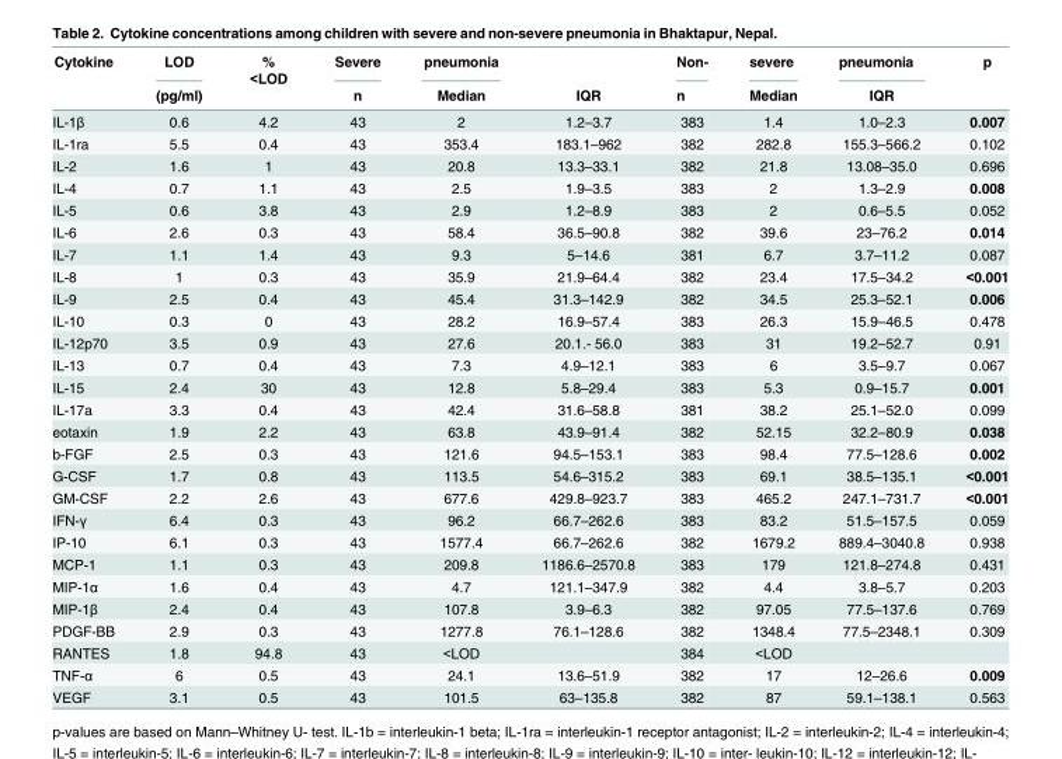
<table><thead><tr><td rowspan="2">Cytokine</td><td rowspan="2">LOD (pg/ml)</td><td rowspan="2">% &lt;LOD</td><td rowspan="2">Severe n</td><td rowspan="2">pneumonia Median</td><td rowspan="2">IQR</td><td rowspan="2">Non- n</td><td rowspan="2">severe Median</td><td rowspan="2">pneumonia IQR</td><td rowspan="2">p</td></tr><tr></tr></thead><tbody><tr><td>IL-1β</td><td>0.6</td><td>4.2</td><td>43</td><td>2</td><td>1.2–3.7</td><td>383</td><td>1.4</td><td>1.0–2.3</td><td>0.007</td></tr><tr><td>IL-1ra</td><td>5.5</td><td>0.4</td><td>43</td><td>353.4</td><td>183.1–962</td><td>382</td><td>282.8</td><td>155.3–566.2</td><td>0.102</td></tr><tr><td>IL-2</td><td>1.6</td><td>1</td><td>43</td><td>20.8</td><td>13.3–33.1</td><td>382</td><td>21.8</td><td>13.08–35.0</td><td>0.696</td></tr><tr><td>IL-4</td><td>0.7</td><td>1.1</td><td>43</td><td>2.5</td><td>1.9–3.5</td><td>383</td><td>2</td><td>1.3–2.9</td><td>0.008</td></tr><tr><td>IL-5</td><td>0.6</td><td>3.8</td><td>43</td><td>2.9</td><td>1.2–8.9</td><td>383</td><td>2</td><td>0.6–5.5</td><td>0.052</td></tr><tr><td>IL-6</td><td>2.6</td><td>0.3</td><td>43</td><td>58.4</td><td>36.5–90.8</td><td>382</td><td>39.6</td><td>23–76.2</td><td>0.014</td></tr><tr><td>IL-7</td><td>1.1</td><td>1.4</td><td>43</td><td>9.3</td><td>5–14.6</td><td>381</td><td>6.7</td><td>3.7–11.2</td><td>0.087</td></tr><tr><td>IL-8</td><td>1</td><td>0.3</td><td>43</td><td>35.9</td><td>21.9–64.4</td><td>382</td><td>23.4</td><td>17.5–34.2</td><td>&lt;0.001</td></tr><tr><td>IL-9</td><td>2.5</td><td>0.4</td><td>43</td><td>45.4</td><td>31.3–142.9</td><td>382</td><td>34.5</td><td>25.3–52.1</td><td>0.006</td></tr><tr><td>IL-10</td><td>0.3</td><td>0</td><td>43</td><td>28.2</td><td>16.9–57.4</td><td>383</td><td>26.3</td><td>15.9–46.5</td><td>0.478</td></tr><tr><td>IL-12p70</td><td>3.5</td><td>0.9</td><td>43</td><td>27.6</td><td>20.1.- 56.0</td><td>383</td><td>31</td><td>19.2–52.7</td><td>0.91</td></tr><tr><td>IL-13</td><td>0.7</td><td>0.4</td><td>43</td><td>7.3</td><td>4.9–12.1</td><td>383</td><td>6</td><td>3.5–9.7</td><td>0.067</td></tr><tr><td>IL-15</td><td>2.4</td><td>30</td><td>43</td><td>12.8</td><td>5.8–29.4</td><td>383</td><td>5.3</td><td>0.9–15.7</td><td>0.001</td></tr><tr><td>IL-17a</td><td>3.3</td><td>0.4</td><td>43</td><td>42.4</td><td>31.6–58.8</td><td>381</td><td>38.2</td><td>25.1–52.0</td><td>0.099</td></tr><tr><td>eotaxin</td><td>1.9</td><td>2.2</td><td>43</td><td>63.8</td><td>43.9–91.4</td><td>382</td><td>52.15</td><td>32.2–80.9</td><td>0.038</td></tr><tr><td>b-FGF</td><td>2.5</td><td>0.3</td><td>43</td><td>121.6</td><td>94.5–153.1</td><td>383</td><td>98.4</td><td>77.5–128.6</td><td>0.002</td></tr><tr><td>G-CSF</td><td>1.7</td><td>0.8</td><td>43</td><td>113.5</td><td>54.6–315.2</td><td>383</td><td>69.1</td><td>38.5–135.1</td><td>&lt;0.001</td></tr><tr><td>GM-CSF</td><td>2.2</td><td>2.6</td><td>43</td><td>677.6</td><td>429.8–923.7</td><td>383</td><td>465.2</td><td>247.1–731.7</td><td>&lt;0.001</td></tr><tr><td>IFN-γ</td><td>6.4</td><td>0.3</td><td>43</td><td>96.2</td><td>66.7–262.6</td><td>383</td><td>83.2</td><td>51.5–157.5</td><td>0.059</td></tr><tr><td>IP-10</td><td>6.1</td><td>0.3</td><td>43</td><td>1577.4</td><td>66.7–262.6</td><td>382</td><td>1679.2</td><td>889.4–3040.8</td><td>0.938</td></tr><tr><td>MCP-1</td><td>1.1</td><td>0.3</td><td>43</td><td>209.8</td><td>1186.6–2570.8</td><td>383</td><td>179</td><td>121.8–274.8</td><td>0.431</td></tr><tr><td>MIP-1α</td><td>1.6</td><td>0.4</td><td>43</td><td>4.7</td><td>121.1–347.9</td><td>382</td><td>4.4</td><td>3.8–5.7</td><td>0.203</td></tr><tr><td>MIP-1β</td><td>2.4</td><td>0.4</td><td>43</td><td>107.8</td><td>3.9–6.3</td><td>382</td><td>97.05</td><td>77.5–137.6</td><td>0.769</td></tr><tr><td>PDGF-BB</td><td>2.9</td><td>0.3</td><td>43</td><td>1277.8</td><td>76.1–128.6</td><td>382</td><td>1348.4</td><td>77.5–2348.1</td><td>0.309</td></tr><tr><td>RANTES</td><td>1.8</td><td>94.8</td><td>43</td><td>&lt;LOD</td><td></td><td>384</td><td>&lt;LOD</td><td></td><td></td></tr><tr><td>TNF-α</td><td>6</td><td>0.5</td><td>43</td><td>24.1</td><td>13.6–51.9</td><td>382</td><td>17</td><td>12–26.6</td><td>0.009</td></tr><tr><td>VEGF</td><td>3.1</td><td>0.5</td><td>43</td><td>101.5</td><td>63–135.8</td><td>382</td><td>87</td><td>59.1–138.1</td><td>0.563</td></tr></tbody></table>